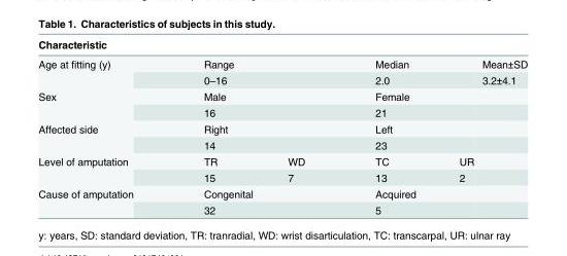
<table><thead><tr><td>Characteristic</td><td></td><td></td><td></td><td></td><td></td></tr></thead><tbody><tr><td rowspan="2">Age at fitting (y)</td><td colspan="2">Range</td><td colspan="2">Median</td><td>Mean±SD</td></tr><tr><td colspan="2">0–16</td><td colspan="2">2.0</td><td>3.2±4.1</td></tr><tr><td rowspan="2">Sex</td><td colspan="2">Male</td><td colspan="2">Female</td><td></td></tr><tr><td colspan="2">16</td><td colspan="2">21</td><td></td></tr><tr><td rowspan="2">Affected side</td><td colspan="2">Right</td><td colspan="2">Left</td><td></td></tr><tr><td colspan="2">14</td><td colspan="2">23</td><td></td></tr><tr><td rowspan="2">Level of amputation</td><td>TR</td><td>WD</td><td>TC</td><td>UR</td><td></td></tr><tr><td>15</td><td>7</td><td>13</td><td>2</td><td></td></tr><tr><td rowspan="2">Cause of amputation</td><td colspan="2">Congenital</td><td colspan="2">Acquired</td><td></td></tr><tr><td colspan="2">32</td><td colspan="2">5</td><td></td></tr></tbody></table>